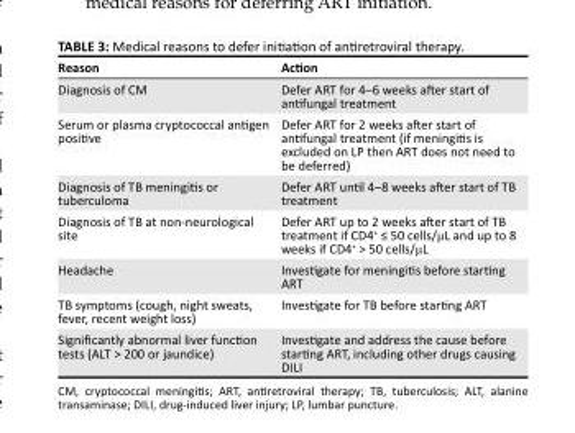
<table><thead><tr><td>Reason</td><td>Action</td></tr></thead><tbody><tr><td>Diagnosis of CM</td><td>Defer ART for 4–6 weeks after start of antifungal treatment</td></tr><tr><td>Serum or plasma cryptococcal antigen positive</td><td>Defer ART for 2 weeks after start of antifungal treatment (if meningitis is excluded on LP then ART does not need to be deferred)</td></tr><tr><td>Diagnosis of TB meningitis or tuberculoma</td><td>Defer ART until 4–8 weeks after start of TB treatment</td></tr><tr><td>Diagnosis of TB at non-neurological site</td><td>Defer ART up to 2 weeks after start of TB treatment if CD4<sup>+</sup> ≤ 50 cells/μL and up to 8 weeks if CD4<sup>+</sup> &gt; 50 cells/μL</td></tr><tr><td>Headache</td><td>Investigate for meningitis before starting ART</td></tr><tr><td>TB symptoms (cough, night sweats, fever, recent weight loss)</td><td>Investigate for TB before starting ART</td></tr><tr><td>Significantly abnormal liver function tests (ALT &gt; 200 or jaundice)</td><td>Investigate and address the cause before starting ART, including other drugs causing DILI</td></tr></tbody></table>